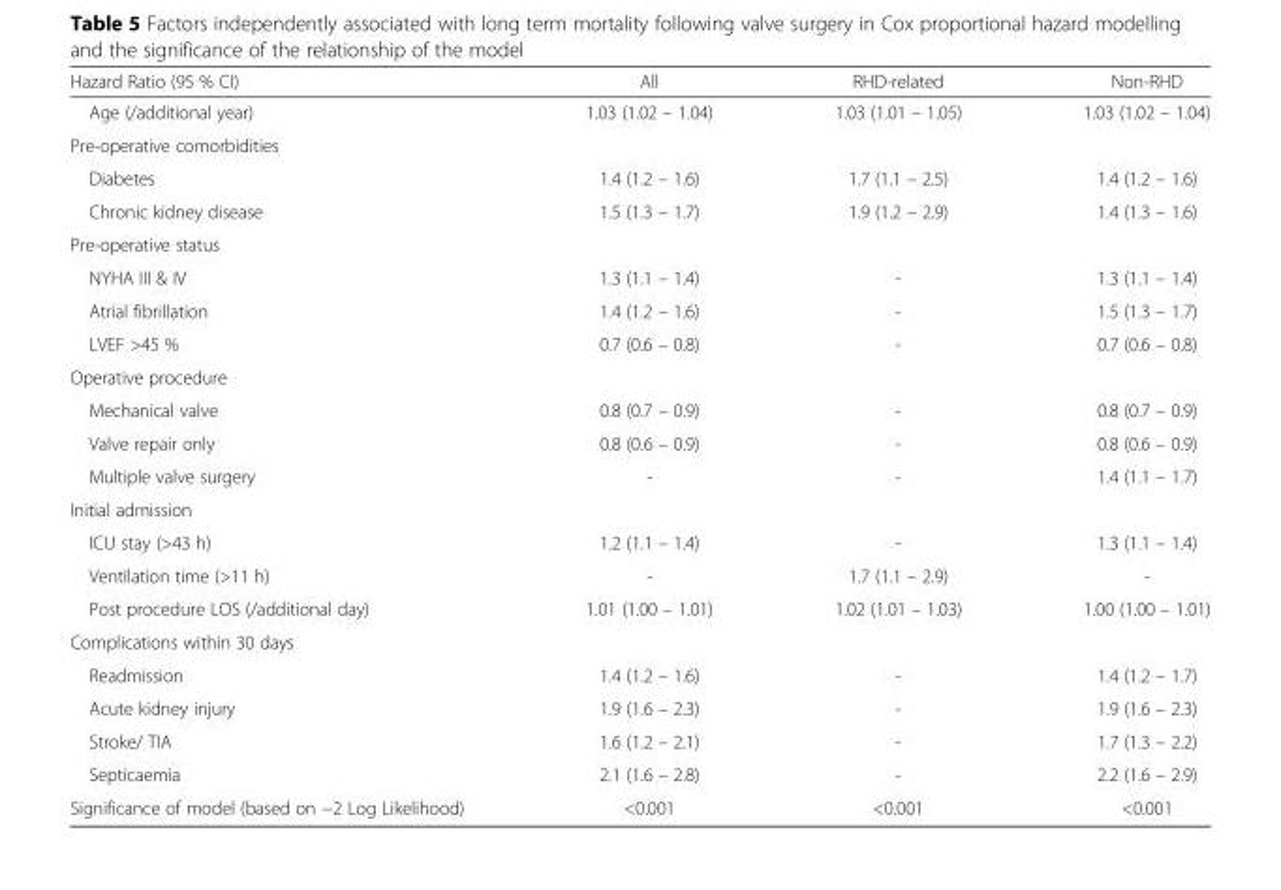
<table><thead><tr><td>Hazard Ratio (95 % CI)</td><td>All</td><td>RHD-related</td><td>Non-RHD</td></tr></thead><tbody><tr><td>Age (/additional year)</td><td>1.03 (1.02 – 1.04)</td><td>1.03 (1.01 – 1.05)</td><td>1.03 (1.02 – 1.04)</td></tr><tr><td colspan="4">Pre-operative comorbidities</td></tr><tr><td>Diabetes</td><td>1.4 (1.2 – 1.6)</td><td>1.7 (1.1 – 2.5)</td><td>1.4 (1.2 – 1.6)</td></tr><tr><td>Chronic kidney disease</td><td>1.5 (1.3 – 1.7)</td><td>1.9 (1.2 – 2.9)</td><td>1.4 (1.3 – 1.6)</td></tr><tr><td colspan="4">Pre-operative status</td></tr><tr><td>NYHA III &amp; IV</td><td>1.3 (1.1 – 1.4)</td><td>-</td><td>1.3 (1.1 – 1.4)</td></tr><tr><td>Atrial fibrillation</td><td>1.4 (1.2 – 1.6)</td><td>-</td><td>1.5 (1.3 – 1.7)</td></tr><tr><td>LVEF &gt;45 %</td><td>0.7 (0.6 – 0.8)</td><td>-</td><td>0.7 (0.6 – 0.8)</td></tr><tr><td colspan="4">Operative procedure</td></tr><tr><td>Mechanical valve</td><td>0.8 (0.7 – 0.9)</td><td>-</td><td>0.8 (0.7 – 0.9)</td></tr><tr><td>Valve repair only</td><td>0.8 (0.6 – 0.9)</td><td>-</td><td>0.8 (0.6 – 0.9)</td></tr><tr><td>Multiple valve surgery</td><td>-</td><td>-</td><td>1.4 (1.1 – 1.7)</td></tr><tr><td colspan="4">Initial admission</td></tr><tr><td>ICU stay (&gt;43 h)</td><td>1.2 (1.1 – 1.4)</td><td>-</td><td>1.3 (1.1 – 1.4)</td></tr><tr><td>Ventilation time (&gt;11 h)</td><td>-</td><td>1.7 (1.1 – 2.9)</td><td>-</td></tr><tr><td>Post procedure LOS (/additional day)</td><td>1.01 (1.00 – 1.01)</td><td>1.02 (1.01 – 1.03)</td><td>1.00 (1.00 – 1.01)</td></tr><tr><td colspan="4">Complications within 30 days</td></tr><tr><td>Readmission</td><td>1.4 (1.2 – 1.6)</td><td>-</td><td>1.4 (1.2 – 1.7)</td></tr><tr><td>Acute kidney injury</td><td>1.9 (1.6 – 2.3)</td><td>-</td><td>1.9 (1.6 – 2.3)</td></tr><tr><td>Stroke/ TIA</td><td>1.6 (1.2 – 2.1)</td><td>-</td><td>1.7 (1.3 – 2.2)</td></tr><tr><td>Septicaemia</td><td>2.1 (1.6 – 2.8)</td><td>-</td><td>2.2 (1.6 – 2.9)</td></tr><tr><td>Significance of model (based on −2 Log Likelihood)</td><td>&lt;0.001</td><td>&lt;0.001</td><td>&lt;0.001</td></tr></tbody></table>